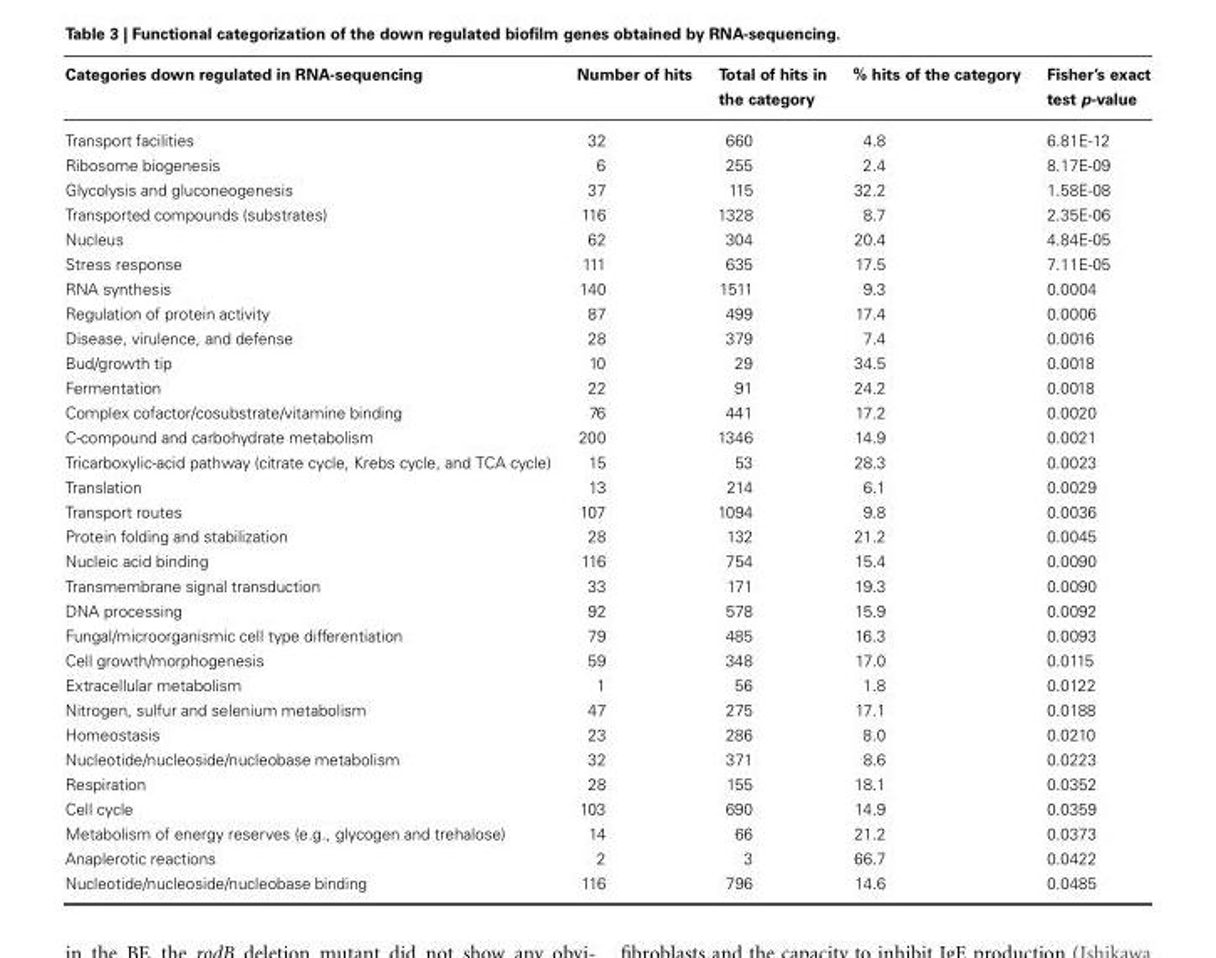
<table><thead><tr><td>Categories down regulated in RNA-sequencing</td><td>Number of hits</td><td>Total of hits in the category</td><td>% hits of the category</td><td>Fisher’s exact test p-value</td></tr></thead><tbody><tr><td>Transport facilities</td><td>32</td><td>660</td><td>4.8</td><td>6.81E-12</td></tr><tr><td>Ribosome biogenesis</td><td>6</td><td>255</td><td>2.4</td><td>8.17E-09</td></tr><tr><td>Glycolysis and gluconeogenesis</td><td>37</td><td>115</td><td>32.2</td><td>1.58E-08</td></tr><tr><td>Transported compounds (substrates)</td><td>116</td><td>1328</td><td>8.7</td><td>2.35E-06</td></tr><tr><td>Nucleus</td><td>62</td><td>304</td><td>20.4</td><td>4.84E-05</td></tr><tr><td>Stress response</td><td>111</td><td>635</td><td>17.5</td><td>7.11E-05</td></tr><tr><td>RNA synthesis</td><td>140</td><td>1511</td><td>9.3</td><td>0.0004</td></tr><tr><td>Regulation of protein activity</td><td>87</td><td>499</td><td>17.4</td><td>0.0006</td></tr><tr><td>Disease, virulence, and defense</td><td>28</td><td>379</td><td>7.4</td><td>0.0016</td></tr><tr><td>Bud/growth tip</td><td>10</td><td>29</td><td>34.5</td><td>0.0018</td></tr><tr><td>Fermentation</td><td>22</td><td>91</td><td>24.2</td><td>0.0018</td></tr><tr><td>Complex cofactor/cosubstrate/vitamine binding</td><td>76</td><td>441</td><td>17.2</td><td>0.0020</td></tr><tr><td>C-compound and carbohydrate metabolism</td><td>200</td><td>1346</td><td>14.9</td><td>0.0021</td></tr><tr><td>Tricarboxylic-acid pathway (citrate cycle, Krebs cycle, and TCA cycle)</td><td>15</td><td>53</td><td>28.3</td><td>0.0023</td></tr><tr><td>Translation</td><td>13</td><td>214</td><td>6.1</td><td>0.0029</td></tr><tr><td>Transport routes</td><td>107</td><td>1094</td><td>9.8</td><td>0.0036</td></tr><tr><td>Protein folding and stabilization</td><td>28</td><td>132</td><td>21.2</td><td>0.0045</td></tr><tr><td>Nucleic acid binding</td><td>116</td><td>754</td><td>15.4</td><td>0.0090</td></tr><tr><td>Transmembrane signal transduction</td><td>33</td><td>171</td><td>19.3</td><td>0.0090</td></tr><tr><td>DNA processing</td><td>92</td><td>578</td><td>15.9</td><td>0.0092</td></tr><tr><td>Fungal/microorganismic cell type differentiation</td><td>79</td><td>485</td><td>16.3</td><td>0.0093</td></tr><tr><td>Cell growth/morphogenesis</td><td>59</td><td>348</td><td>17.0</td><td>0.0115</td></tr><tr><td>Extracellular metabolism</td><td>1</td><td>56</td><td>1.8</td><td>0.0122</td></tr><tr><td>Nitrogen, sulfur and selenium metabolism</td><td>47</td><td>275</td><td>17.1</td><td>0.0188</td></tr><tr><td>Homeostasis</td><td>23</td><td>286</td><td>8.0</td><td>0.0210</td></tr><tr><td>Nucleotide/nucleoside/nucleobase metabolism</td><td>32</td><td>371</td><td>8.6</td><td>0.0223</td></tr><tr><td>Respiration</td><td>28</td><td>155</td><td>18.1</td><td>0.0352</td></tr><tr><td>Cell cycle</td><td>103</td><td>690</td><td>14.9</td><td>0.0359</td></tr><tr><td>Metabolism of energy reserves (e.g., glycogen and trehalose)</td><td>14</td><td>66</td><td>21.2</td><td>0.0373</td></tr><tr><td>Anaplerotic reactions</td><td>2</td><td>3</td><td>66.7</td><td>0.0422</td></tr><tr><td>Nucleotide/nucleoside/nucleobase binding</td><td>116</td><td>796</td><td>14.6</td><td>0.0485</td></tr></tbody></table>